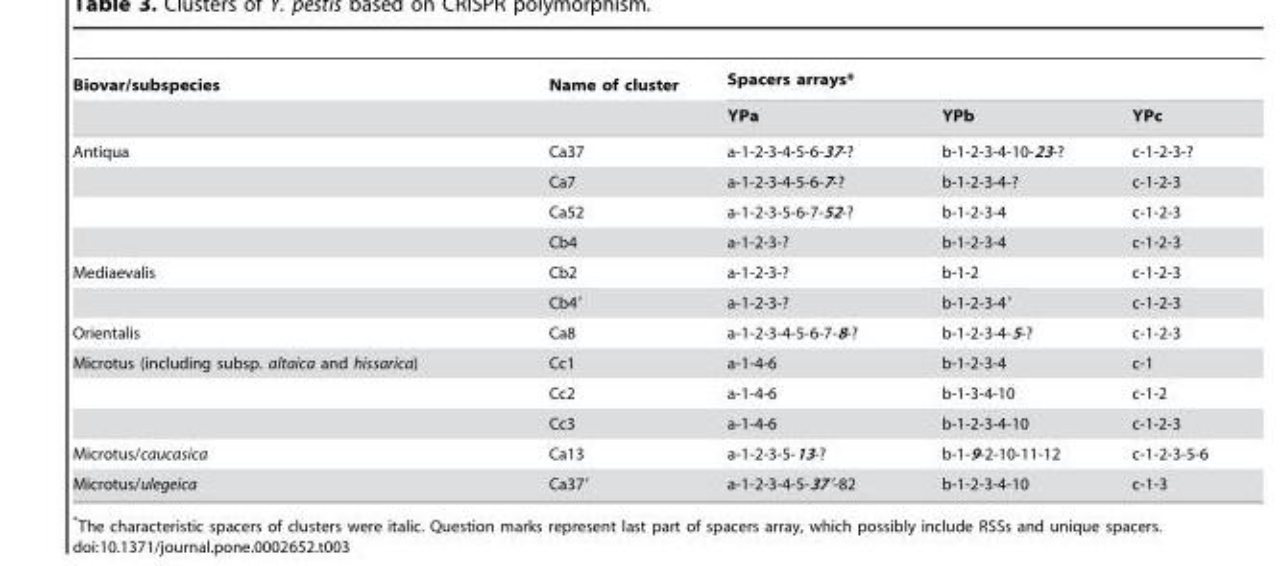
<table><thead><tr><td rowspan="2">Biovar/subspecies</td><td rowspan="2">Name of cluster</td><td colspan="3">Spacers arrays*</td></tr><tr><td>YPa</td><td>YPb</td><td>YPc</td></tr></thead><tbody><tr><td rowspan="4">Antiqua</td><td>Ca37</td><td>a-1-2-3-4-5-6-37-?</td><td>b-1-2-3-4-10-23-?</td><td>c-1-2-3-?</td></tr><tr><td>Ca7</td><td>a-1-2-3-4-5-6-7-?</td><td>b-1-2-3-4-?</td><td>c-1-2-3</td></tr><tr><td>Ca52</td><td>a-1-2-3-5-6-7-52-?</td><td>b-1-2-3-4</td><td>c-1-2-3</td></tr><tr><td>Cb4</td><td>a-1-2-3-?</td><td>b-1-2-3-4</td><td>c-1-2-3</td></tr><tr><td rowspan="2">Mediaevalis</td><td>Cb2</td><td>a-1-2-3-?</td><td>b-1-2</td><td>c-1-2-3</td></tr><tr><td>Cb4′</td><td>a-1-2-3-?</td><td>b-1-2-3-4′</td><td>c-1-2-3</td></tr><tr><td>Orientalis</td><td>Ca8</td><td>a-1-2-3-4-5-6-7-8-?</td><td>b-1-2-3-4-5-?</td><td>c-1-2-3</td></tr><tr><td rowspan="3">Microtus (including subsp. altaica and hissarica)</td><td>Cc1</td><td>a-1-4-6</td><td>b-1-2-3-4</td><td>c-1</td></tr><tr><td>Cc2</td><td>a-1-4-6</td><td>b-1-3-4-10</td><td>c-1-2</td></tr><tr><td>Cc3</td><td>a-1-4-6</td><td>b-1-2-3-4-10</td><td>c-1-2-3</td></tr><tr><td>Microtus/caucasica</td><td>Ca13</td><td>a-1-2-3-5-13-?</td><td>b-1-9-2-10-11-12</td><td>c-1-2-3-5-6</td></tr><tr><td>Microtus/ulegeica</td><td>Ca37′</td><td>a-1-2-3-4-5-37′-82</td><td>b-1-2-3-4-10</td><td>c-1-3</td></tr></tbody></table>